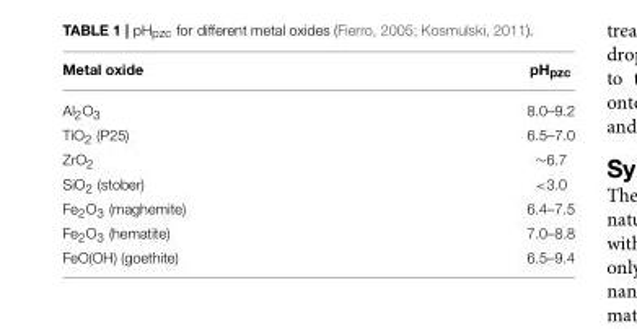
<table><thead><tr><td>Metal oxide</td><td>pH<sub>pzc</sub></td></tr></thead><tbody><tr><td>Al<sub>2</sub>O<sub>3</sub></td><td>8.0–9.2</td></tr><tr><td>TiO<sub>2</sub> (P25)</td><td>6.5–7.0</td></tr><tr><td>ZrO<sub>2</sub></td><td>∼6.7</td></tr><tr><td>SiO<sub>2</sub> (stober)</td><td>&lt;3.0</td></tr><tr><td>Fe<sub>2</sub>O<sub>3</sub> (maghemite)</td><td>6.4–7.5</td></tr><tr><td>Fe<sub>2</sub>O<sub>3</sub> (hematite)</td><td>7.0–8.8</td></tr><tr><td>FeO(OH) (goethite)</td><td>6.5–9.4</td></tr></tbody></table>